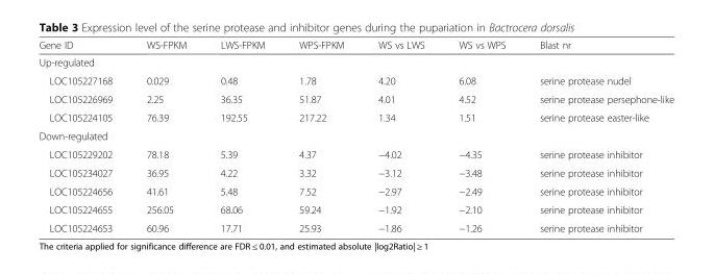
<table><thead><tr><td>Gene ID</td><td>WS-FPKM</td><td>LWS-FPKM</td><td>WPS-FPKM</td><td>WS vs LWS</td><td>WS vs WPS</td><td>Blast nr</td></tr></thead><tbody><tr><td colspan="7">Up-regulated</td></tr><tr><td>LOC105227168</td><td>0.029</td><td>0.48</td><td>1.78</td><td>4.20</td><td>6.08</td><td>serine protease nudel</td></tr><tr><td>LOC105226969</td><td>2.25</td><td>36.35</td><td>51.87</td><td>4.01</td><td>4.52</td><td>serine protease persephone-like</td></tr><tr><td>LOC105224105</td><td>76.39</td><td>192.55</td><td>217.22</td><td>1.34</td><td>1.51</td><td>serine protease easter-like</td></tr><tr><td colspan="7">Down-regulated</td></tr><tr><td>LOC105229202</td><td>78.18</td><td>5.39</td><td>4.37</td><td>−4.02</td><td>−4.35</td><td>serine protease inhibitor</td></tr><tr><td>LOC105234027</td><td>36.95</td><td>4.22</td><td>3.32</td><td>−3.12</td><td>−3.48</td><td>serine protease inhibitor</td></tr><tr><td>LOC105224656</td><td>41.61</td><td>5.48</td><td>7.52</td><td>−2.97</td><td>−2.49</td><td>serine protease inhibitor</td></tr><tr><td>LOC105224655</td><td>256.05</td><td>68.06</td><td>59.24</td><td>−1.92</td><td>−2.10</td><td>serine protease inhibitor</td></tr><tr><td>LOC105224653</td><td>60.96</td><td>17.71</td><td>25.93</td><td>−1.86</td><td>−1.26</td><td>serine protease inhibitor</td></tr></tbody></table>